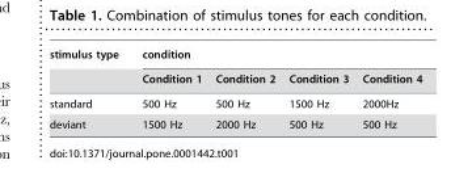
<table><thead><tr><td rowspan="2">stimulus type</td><td colspan="4">condition</td></tr><tr><td>Condition 1</td><td>Condition 2</td><td>Condition 3</td><td>Condition 4</td></tr></thead><tbody><tr><td>standard</td><td>500 Hz</td><td>500 Hz</td><td>1500 Hz</td><td>2000Hz</td></tr><tr><td>deviant</td><td>1500 Hz</td><td>2000 Hz</td><td>500 Hz</td><td>500 Hz</td></tr></tbody></table>